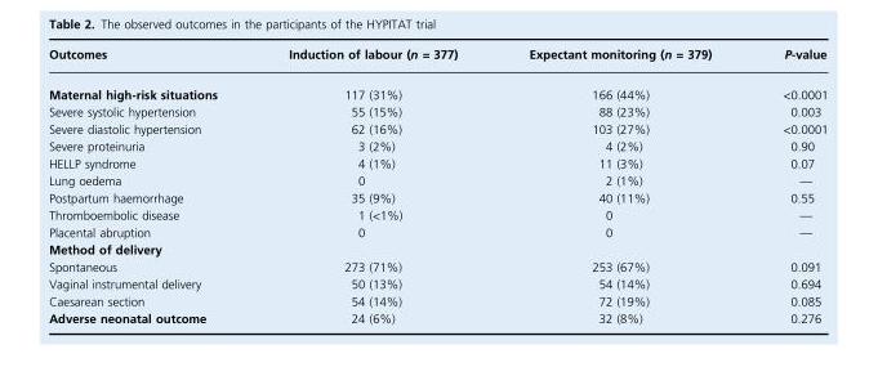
<table><thead><tr><td>Outcomes</td><td>Induction of labour (n = 377)</td><td>Expectant monitoring (n = 379)</td><td>P-value</td></tr></thead><tbody><tr><td>Maternal high-risk situations</td><td>117 (31%)</td><td>166 (44%)</td><td>&lt;0.0001</td></tr><tr><td>Severe systolic hypertension</td><td>55 (15%)</td><td>88 (23%)</td><td>0.003</td></tr><tr><td>Severe diastolic hypertension</td><td>62 (16%)</td><td>103 (27%)</td><td>&lt;0.0001</td></tr><tr><td>Severe proteinuria</td><td>3 (2%)</td><td>4 (2%)</td><td>0.90</td></tr><tr><td>HELLP syndrome</td><td>4 (1%)</td><td>11 (3%)</td><td>0.07</td></tr><tr><td>Lung oedema</td><td>0</td><td>2 (1%)</td><td>—</td></tr><tr><td>Postpartum haemorrhage</td><td>35 (9%)</td><td>40 (11%)</td><td>0.55</td></tr><tr><td>Thromboembolic disease</td><td>1 (&lt;1%)</td><td>0</td><td>—</td></tr><tr><td>Placental abruption</td><td>0</td><td>0</td><td>—</td></tr><tr><td colspan="4">Method of delivery</td></tr><tr><td>Spontaneous</td><td>273 (71%)</td><td>253 (67%)</td><td>0.091</td></tr><tr><td>Vaginal instrumental delivery</td><td>50 (13%)</td><td>54 (14%)</td><td>0.694</td></tr><tr><td>Caesarean section</td><td>54 (14%)</td><td>72 (19%)</td><td>0.085</td></tr><tr><td>Adverse neonatal outcome</td><td>24 (6%)</td><td>32 (8%)</td><td>0.276</td></tr></tbody></table>